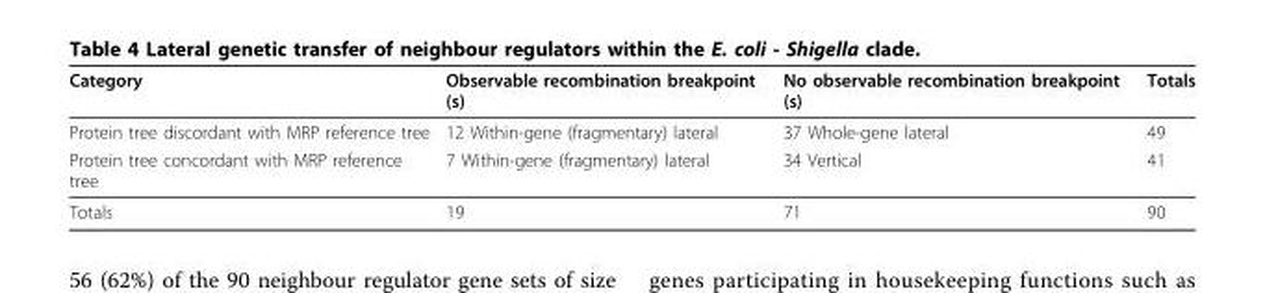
<table><thead><tr><td>Category</td><td>Observable recombination breakpoint (s)</td><td>No observable recombination breakpoint (s)</td><td>Totals</td></tr></thead><tbody><tr><td>Protein tree discordant with MRP reference tree</td><td>12 Within-gene (fragmentary) lateral</td><td>37 Whole-gene lateral</td><td>49</td></tr><tr><td>Protein tree concordant with MRP reference tree</td><td>7 Within-gene (fragmentary) lateral</td><td>34 Vertical</td><td>41</td></tr><tr><td>Totals</td><td>19</td><td>71</td><td>90</td></tr></tbody></table>